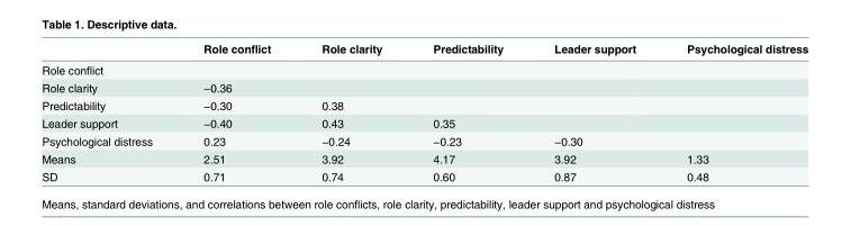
<table><thead><tr><td></td><td>Role conflict</td><td>Role clarity</td><td>Predictability</td><td>Leader support</td><td>Psychological distress</td></tr></thead><tbody><tr><td colspan="6">Role conflict</td></tr><tr><td>Role clarity</td><td>−0.36</td><td></td><td></td><td></td><td></td></tr><tr><td>Predictability</td><td>−0.30</td><td>0.38</td><td></td><td></td><td></td></tr><tr><td>Leader support</td><td>−0.40</td><td>0.43</td><td>0.35</td><td></td><td></td></tr><tr><td>Psychological distress</td><td>0.23</td><td>−0.24</td><td>−0.23</td><td>−0.30</td><td></td></tr><tr><td>Means</td><td>2.51</td><td>3.92</td><td>4.17</td><td>3.92</td><td>1.33</td></tr><tr><td>SD</td><td>0.71</td><td>0.74</td><td>0.60</td><td>0.87</td><td>0.48</td></tr></tbody></table>